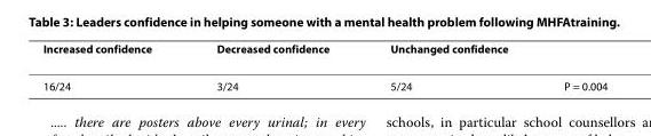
<table><thead><tr><td>Increased confidence</td><td>Decreased confidence</td><td>Unchanged confidence</td><td></td></tr></thead><tbody><tr><td>16/24</td><td>3/24</td><td>5/24</td><td>P = 0.004</td></tr></tbody></table>